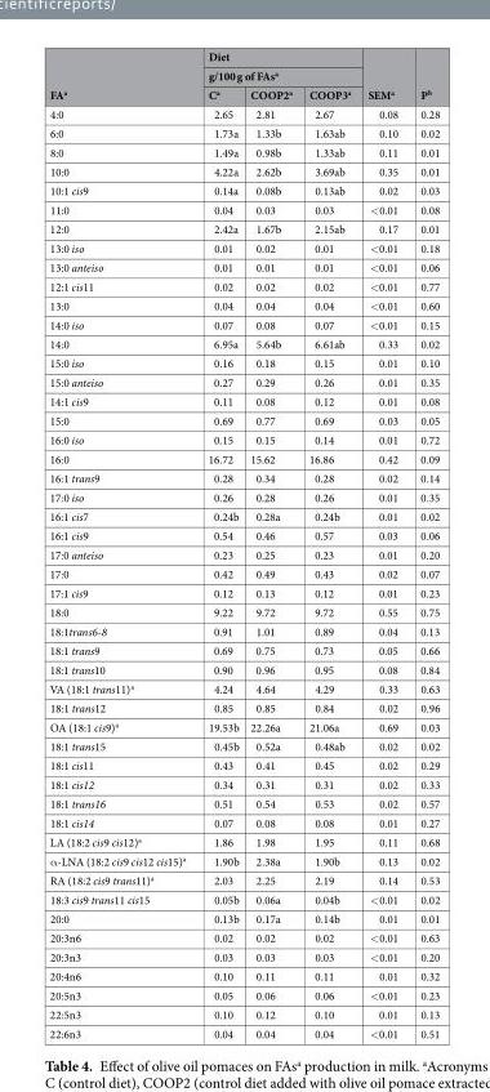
<table><thead><tr><td rowspan="3">FA<sup>a</sup></td><td rowspan="2" colspan="3">Diet g/100 g of FAs<sup>a</sup></td><td rowspan="3">SEM<sup>a</sup></td><td rowspan="3">P<sup>b</sup></td></tr><tr></tr><tr><td>C<sup>a</sup></td><td>COOP2<sup>a</sup></td><td>COOP3<sup>a</sup></td></tr></thead><tbody><tr><td>4:0</td><td>2.65</td><td>2.81</td><td>2.67</td><td>0.08</td><td>0.28</td></tr><tr><td>6:0</td><td>1.73a</td><td>1.33b</td><td>1.63ab</td><td>0.10</td><td>0.02</td></tr><tr><td>8:0</td><td>1.49a</td><td>0.98b</td><td>1.33ab</td><td>0.11</td><td>0.01</td></tr><tr><td>10:0</td><td>4.22a</td><td>2.62b</td><td>3.69ab</td><td>0.35</td><td>0.01</td></tr><tr><td>10:1 cis9</td><td>0.14a</td><td>0.08b</td><td>0.13ab</td><td>0.02</td><td>0.03</td></tr><tr><td>11:0</td><td>0.04</td><td>0.03</td><td>0.03</td><td>&lt;0.01</td><td>0.08</td></tr><tr><td>12:0</td><td>2.42a</td><td>1.67b</td><td>2.15ab</td><td>0.17</td><td>0.01</td></tr><tr><td>13:0 iso</td><td>0.01</td><td>0.02</td><td>0.01</td><td>&lt;0.01</td><td>0.18</td></tr><tr><td>13:0 anteiso</td><td>0.01</td><td>0.01</td><td>0.01</td><td>&lt;0.01</td><td>0.06</td></tr><tr><td>12:1 cis11</td><td>0.02</td><td>0.02</td><td>0.02</td><td>&lt;0.01</td><td>0.77</td></tr><tr><td>13:0</td><td>0.04</td><td>0.04</td><td>0.04</td><td>&lt;0.01</td><td>0.60</td></tr><tr><td>14:0 iso</td><td>0.07</td><td>0.08</td><td>0.07</td><td>&lt;0.01</td><td>0.15</td></tr><tr><td>14:0</td><td>6.95a</td><td>5.64b</td><td>6.61ab</td><td>0.33</td><td>0.02</td></tr><tr><td>15:0 iso</td><td>0.16</td><td>0.18</td><td>0.15</td><td>0.01</td><td>0.10</td></tr><tr><td>15:0 anteiso</td><td>0.27</td><td>0.29</td><td>0.26</td><td>0.01</td><td>0.35</td></tr><tr><td>14:1 cis9</td><td>0.11</td><td>0.08</td><td>0.12</td><td>0.01</td><td>0.08</td></tr><tr><td>15:0</td><td>0.69</td><td>0.77</td><td>0.69</td><td>0.03</td><td>0.05</td></tr><tr><td>16:0 iso</td><td>0.15</td><td>0.15</td><td>0.14</td><td>0.01</td><td>0.72</td></tr><tr><td>16:0</td><td>16.72</td><td>15.62</td><td>16.86</td><td>0.42</td><td>0.09</td></tr><tr><td>16:1 trans9</td><td>0.28</td><td>0.34</td><td>0.28</td><td>0.02</td><td>0.14</td></tr><tr><td>17:0 iso</td><td>0.26</td><td>0.28</td><td>0.26</td><td>0.01</td><td>0.35</td></tr><tr><td>16:1 cis7</td><td>0.24b</td><td>0.28a</td><td>0.24b</td><td>0.01</td><td>0.02</td></tr><tr><td>16:1 cis9</td><td>0.54</td><td>0.46</td><td>0.57</td><td>0.03</td><td>0.06</td></tr><tr><td>17:0 anteiso</td><td>0.23</td><td>0.25</td><td>0.23</td><td>0.01</td><td>0.20</td></tr><tr><td>17:0</td><td>0.42</td><td>0.49</td><td>0.43</td><td>0.02</td><td>0.07</td></tr><tr><td>17:1 cis9</td><td>0.12</td><td>0.13</td><td>0.12</td><td>0.01</td><td>0.23</td></tr><tr><td>18:0</td><td>9.22</td><td>9.72</td><td>9.72</td><td>0.55</td><td>0.75</td></tr><tr><td>18:1trans6-8</td><td>0.91</td><td>1.01</td><td>0.89</td><td>0.04</td><td>0.13</td></tr><tr><td>18:1 trans9</td><td>0.69</td><td>0.75</td><td>0.73</td><td>0.05</td><td>0.66</td></tr><tr><td>18:1 trans10</td><td>0.90</td><td>0.96</td><td>0.95</td><td>0.08</td><td>0.84</td></tr><tr><td>VA (18:1 trans11)<sup>a</sup></td><td>4.24</td><td>4.64</td><td>4.29</td><td>0.33</td><td>0.63</td></tr><tr><td>18:1 trans12</td><td>0.85</td><td>0.85</td><td>0.84</td><td>0.02</td><td>0.96</td></tr><tr><td>OA (18:1 cis9)<sup>a</sup></td><td>19.53b</td><td>22.26a</td><td>21.06a</td><td>0.69</td><td>0.03</td></tr><tr><td>18:1 trans15</td><td>0.45b</td><td>0.52a</td><td>0.48ab</td><td>0.02</td><td>0.02</td></tr><tr><td>18:1 cis11</td><td>0.43</td><td>0.41</td><td>0.45</td><td>0.02</td><td>0.29</td></tr><tr><td>18:1 cis12</td><td>0.34</td><td>0.31</td><td>0.31</td><td>0.02</td><td>0.33</td></tr><tr><td>18:1 trans16</td><td>0.51</td><td>0.54</td><td>0.53</td><td>0.02</td><td>0.57</td></tr><tr><td>18:1 cis14</td><td>0.07</td><td>0.08</td><td>0.08</td><td>0.01</td><td>0.27</td></tr><tr><td>LA (18:2 cis9 cis12)<sup>a</sup></td><td>1.86</td><td>1.98</td><td>1.95</td><td>0.11</td><td>0.68</td></tr><tr><td>α-LNA (18:2 cis9 cis12 cis15)<sup>a</sup></td><td>1.90b</td><td>2.38a</td><td>1.90b</td><td>0.13</td><td>0.02</td></tr><tr><td>RA (18:2 cis9 trans11)<sup>a</sup></td><td>2.03</td><td>2.25</td><td>2.19</td><td>0.14</td><td>0.53</td></tr><tr><td>18:3 cis9 trans11 cis15</td><td>0.05b</td><td>0.06a</td><td>0.04b</td><td>&lt;0.01</td><td>0.02</td></tr><tr><td>20:0</td><td>0.13b</td><td>0.17a</td><td>0.14b</td><td>0.01</td><td>0.01</td></tr><tr><td>20:3n6</td><td>0.02</td><td>0.02</td><td>0.02</td><td>&lt;0.01</td><td>0.63</td></tr><tr><td>20:3n3</td><td>0.03</td><td>0.03</td><td>0.03</td><td>&lt;0.01</td><td>0.20</td></tr><tr><td>20:4n6</td><td>0.10</td><td>0.11</td><td>0.11</td><td>0.01</td><td>0.32</td></tr><tr><td>20:5n3</td><td>0.05</td><td>0.06</td><td>0.06</td><td>&lt;0.01</td><td>0.23</td></tr><tr><td>22:5n3</td><td>0.10</td><td>0.12</td><td>0.10</td><td>0.01</td><td>0.13</td></tr><tr><td>22:6n3</td><td>0.04</td><td>0.04</td><td>0.04</td><td>&lt;0.01</td><td>0.51</td></tr></tbody></table>